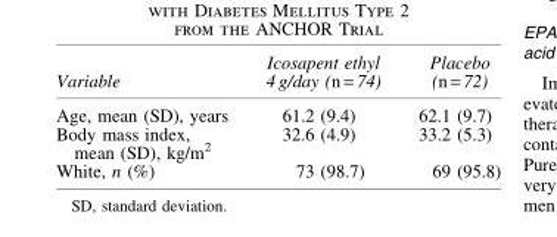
<table><thead><tr><td>Variable</td><td>Icosapent ethyl 4 g/day (n = 74)</td><td>Placebo (n = 72)</td></tr></thead><tbody><tr><td>Age, mean (SD), years</td><td>61.2 (9.4)</td><td>62.1 (9.7)</td></tr><tr><td>Body mass index, mean (SD), kg/m<sup>2</sup></td><td>32.6 (4.9)</td><td>33.2 (5.3)</td></tr><tr><td>White, n (%)</td><td>73 (98.7)</td><td>69 (95.8)</td></tr></tbody></table>